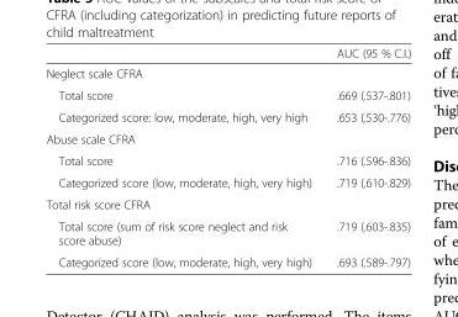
<table><thead><tr><td></td><td>AUC (95 % C.I.)</td></tr></thead><tbody><tr><td colspan="2">Neglect scale CFRA</td></tr><tr><td>Total score</td><td>.669 (.537-.801)</td></tr><tr><td>Categorized score: low, moderate, high, very high</td><td>.653 (.530-.776)</td></tr><tr><td colspan="2">Abuse scale CFRA</td></tr><tr><td>Total score</td><td>.716 (.596-.836)</td></tr><tr><td>Categorized score (low, moderate, high, very high)</td><td>.719 (.610-.829)</td></tr><tr><td colspan="2">Total risk score CFRA</td></tr><tr><td>Total score (sum of risk score neglect and risk score abuse)</td><td>.719 (.603-.835)</td></tr><tr><td>Categorized score (low, moderate, high, very high)</td><td>.693 (.589-.797)</td></tr></tbody></table>